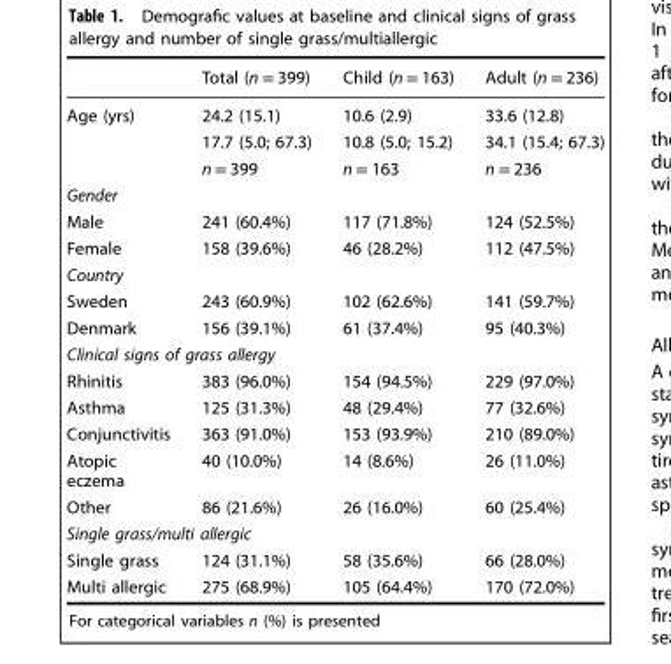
<table><thead><tr><td></td><td>Total (n = 399)</td><td>Child (n = 163)</td><td>Adult (n = 236)</td></tr></thead><tbody><tr><td rowspan="3">Age (yrs)</td><td>24.2 (15.1)</td><td>10.6 (2.9)</td><td>33.6 (12.8)</td></tr><tr><td>17.7 (5.0; 67.3)</td><td>10.8 (5.0; 15.2)</td><td>34.1 (15.4; 67.3)</td></tr><tr><td>n = 399</td><td>n = 163</td><td>n = 236</td></tr><tr><td colspan="4">Gender</td></tr><tr><td>Male</td><td>241 (60.4%)</td><td>117 (71.8%)</td><td>124 (52.5%)</td></tr><tr><td>Female</td><td>158 (39.6%)</td><td>46 (28.2%)</td><td>112 (47.5%)</td></tr><tr><td colspan="4">Country</td></tr><tr><td>Sweden</td><td>243 (60.9%)</td><td>102 (62.6%)</td><td>141 (59.7%)</td></tr><tr><td>Denmark</td><td>156 (39.1%)</td><td>61 (37.4%)</td><td>95 (40.3%)</td></tr><tr><td colspan="4">Clinical signs of grass allergy</td></tr><tr><td>Rhinitis</td><td>383 (96.0%)</td><td>154 (94.5%)</td><td>229 (97.0%)</td></tr><tr><td>Asthma</td><td>125 (31.3%)</td><td>48 (29.4%)</td><td>77 (32.6%)</td></tr><tr><td>Conjunctivitis</td><td>363 (91.0%)</td><td>153 (93.9%)</td><td>210 (89.0%)</td></tr><tr><td>Atopic eczema</td><td>40 (10.0%)</td><td>14 (8.6%)</td><td>26 (11.0%)</td></tr><tr><td>Other</td><td>86 (21.6%)</td><td>26 (16.0%)</td><td>60 (25.4%)</td></tr><tr><td colspan="4">Single grass/multi allergic</td></tr><tr><td>Single grass</td><td>124 (31.1%)</td><td>58 (35.6%)</td><td>66 (28.0%)</td></tr><tr><td>Multi allergic</td><td>275 (68.9%)</td><td>105 (64.4%)</td><td>170 (72.0%)</td></tr></tbody></table>